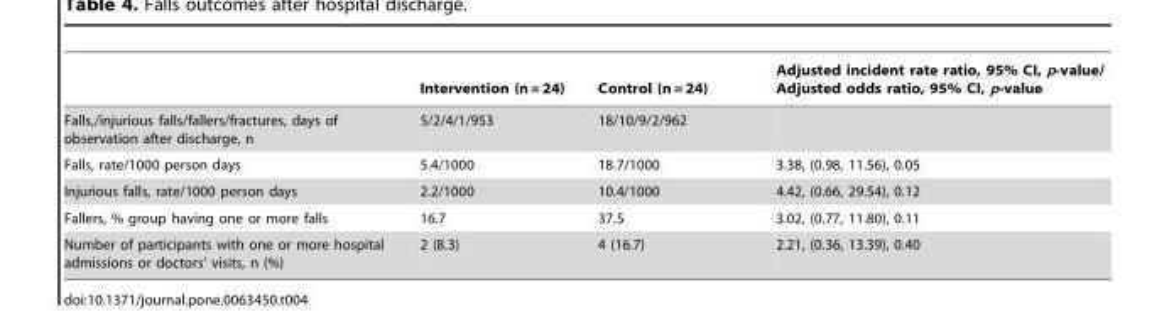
<table><thead><tr><td></td><td>Intervention (n = 24)</td><td>Control (n = 24)</td><td>Adjusted incident rate ratio, 95% CI, p-value/ Adjusted odds ratio, 95% CI, p-value</td></tr></thead><tbody><tr><td>Falls,/injurious falls/fallers/fractures, days of observation after discharge, n</td><td>5/2/4/1/953</td><td>18/10/9/2/962</td><td></td></tr><tr><td>Falls, rate/1000 person days</td><td>5.4/1000</td><td>18.7/1000</td><td>3.38, (0.98, 11.56), 0.05</td></tr><tr><td>Injurious falls, rate/1000 person days</td><td>2.2/1000</td><td>10.4/1000</td><td>4.42, (0.66, 29.54), 0.12</td></tr><tr><td>Fallers, % group having one or more falls</td><td>16.7</td><td>37.5</td><td>3.02, (0.77, 11.80), 0.11</td></tr><tr><td>Number of participants with one or more hospital admissions or doctors’ visits, n (%)</td><td>2 (8.3)</td><td>4 (16.7)</td><td>2.21, (0.36, 13.39), 0.40</td></tr></tbody></table>